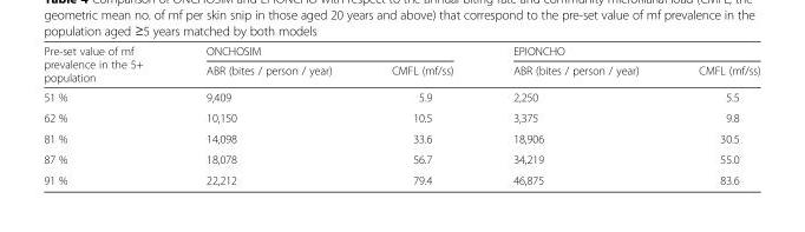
<table><thead><tr><td rowspan="2">Pre-set value of mf prevalence in the 5+ population</td><td colspan="2">ONCHOSIM</td><td colspan="2">EPIONCHO</td></tr><tr><td>ABR (bites / person / year)</td><td>CMFL (mf/ss)</td><td>ABR (bites / person / year)</td><td>CMFL (mf/ss)</td></tr></thead><tbody><tr><td>51 %</td><td>9,409</td><td>5.9</td><td>2,250</td><td>5.5</td></tr><tr><td>62 %</td><td>10,150</td><td>10.5</td><td>3,375</td><td>9.8</td></tr><tr><td>81 %</td><td>14,098</td><td>33.6</td><td>18,906</td><td>30.5</td></tr><tr><td>87 %</td><td>18,078</td><td>56.7</td><td>34,219</td><td>55.0</td></tr><tr><td>91 %</td><td>22,212</td><td>79.4</td><td>46,875</td><td>83.6</td></tr></tbody></table>